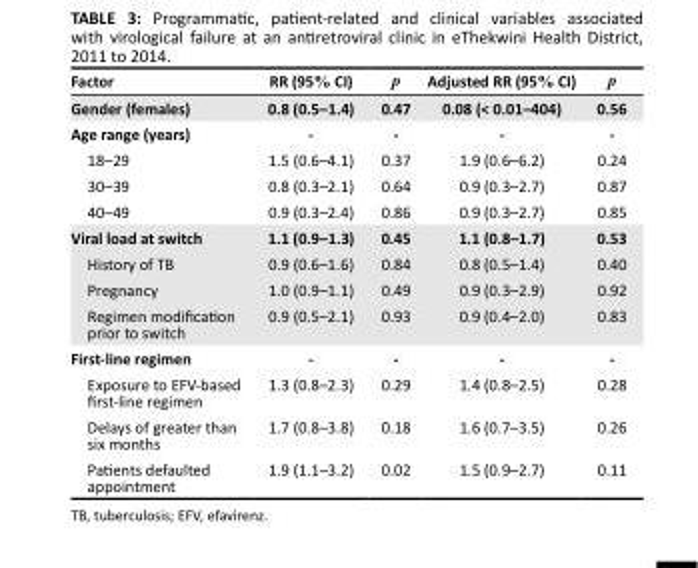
<table><thead><tr><td>Factor</td><td>RR (95% CI)</td><td>p</td><td>Adjusted RR (95% CI)</td><td>p</td></tr></thead><tbody><tr><td>Gender (females)</td><td>0.8 (0.5–1.4)</td><td>0.47</td><td>0.08 (&lt; 0.01–404)</td><td>0.56</td></tr><tr><td>Age range (years)</td><td>-</td><td>-</td><td>-</td><td>-</td></tr><tr><td>18–29</td><td>1.5 (0.6–4.1)</td><td>0.37</td><td>1.9 (0.6–6.2)</td><td>0.24</td></tr><tr><td>30–39</td><td>0.8 (0.3–2.1)</td><td>0.64</td><td>0.9 (0.3–2.7)</td><td>0.87</td></tr><tr><td>40–49</td><td>0.9 (0.3–2.4)</td><td>0.86</td><td>0.9 (0.3–2.7)</td><td>0.85</td></tr><tr><td>Viral load at switch</td><td>1.1 (0.9–1.3)</td><td>0.45</td><td>1.1 (0.8–1.7)</td><td>0.53</td></tr><tr><td>History of TB</td><td>0.9 (0.6–1.6)</td><td>0.84</td><td>0.8 (0.5–1.4)</td><td>0.40</td></tr><tr><td>Pregnancy</td><td>1.0 (0.9–1.1)</td><td>0.49</td><td>0.9 (0.3–2.9)</td><td>0.92</td></tr><tr><td>Regimen modification prior to switch</td><td>0.9 (0.5–2.1)</td><td>0.93</td><td>0.9 (0.4–2.0)</td><td>0.83</td></tr><tr><td>First-line regimen</td><td>-</td><td>-</td><td>-</td><td>-</td></tr><tr><td>Exposure to EFV-based first-line regimen</td><td>1.3 (0.8–2.3)</td><td>0.29</td><td>1.4 (0.8–2.5)</td><td>0.28</td></tr><tr><td>Delays of greater than six months</td><td>1.7 (0.8–3.8)</td><td>0.18</td><td>1.6 (0.7–3.5)</td><td>0.26</td></tr><tr><td>Patients defaulted appointment</td><td>1.9 (1.1–3.2)</td><td>0.02</td><td>1.5 (0.9–2.7)</td><td>0.11</td></tr></tbody></table>